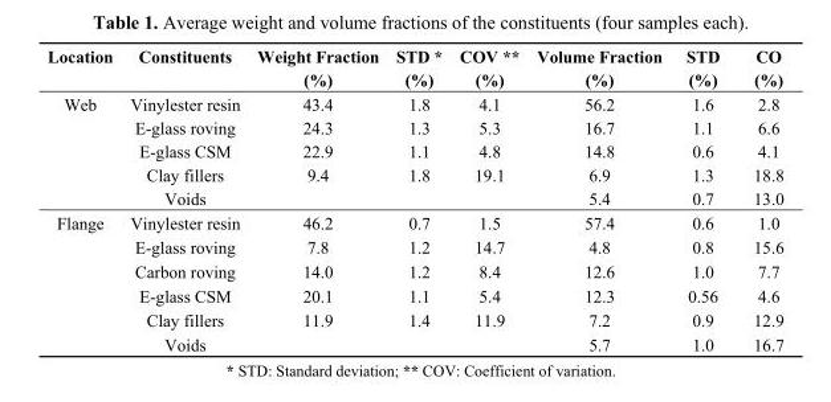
<table><thead><tr><td>Location</td><td>Constituents</td><td>Weight Fraction (%)</td><td>STD * (%)</td><td>COV ** (%)</td><td>Volume Fraction (%)</td><td>STD (%)</td><td>CO (%)</td></tr></thead><tbody><tr><td rowspan="5">Web</td><td>Vinylester resin</td><td>43.4</td><td>1.8</td><td>4.1</td><td>56.2</td><td>1.6</td><td>2.8</td></tr><tr><td>E-glass roving</td><td>24.3</td><td>1.3</td><td>5.3</td><td>16.7</td><td>1.1</td><td>6.6</td></tr><tr><td>E-glass CSM</td><td>22.9</td><td>1.1</td><td>4.8</td><td>14.8</td><td>0.6</td><td>4.1</td></tr><tr><td>Clay fillers</td><td>9.4</td><td>1.8</td><td>19.1</td><td>6.9</td><td>1.3</td><td>18.8</td></tr><tr><td>Voids</td><td></td><td></td><td></td><td>5.4</td><td>0.7</td><td>13.0</td></tr><tr><td rowspan="6">Flange</td><td>Vinylester resin</td><td>46.2</td><td>0.7</td><td>1.5</td><td>57.4</td><td>0.6</td><td>1.0</td></tr><tr><td>E-glass roving</td><td>7.8</td><td>1.2</td><td>14.7</td><td>4.8</td><td>0.8</td><td>15.6</td></tr><tr><td>Carbon roving</td><td>14.0</td><td>1.2</td><td>8.4</td><td>12.6</td><td>1.0</td><td>7.7</td></tr><tr><td>E-glass CSM</td><td>20.1</td><td>1.1</td><td>5.4</td><td>12.3</td><td>0.56</td><td>4.6</td></tr><tr><td>Clay fillers</td><td>11.9</td><td>1.4</td><td>11.9</td><td>7.2</td><td>0.9</td><td>12.9</td></tr><tr><td>Voids</td><td></td><td></td><td></td><td>5.7</td><td>1.0</td><td>16.7</td></tr></tbody></table>